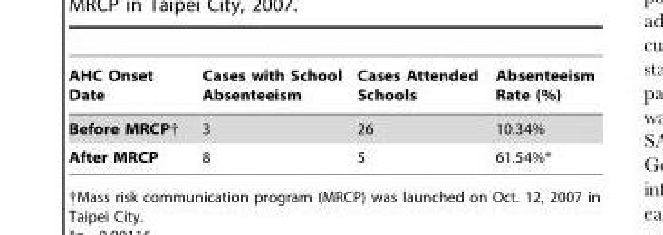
<table><thead><tr><td>AHC Onset Date</td><td>Cases with School Absenteeism</td><td>Cases Attended Schools</td><td>Absenteeism Rate (%)</td></tr></thead><tbody><tr><td>Before MRCP†</td><td>3</td><td>26</td><td>10.34%</td></tr><tr><td>After MRCP</td><td>8</td><td>5</td><td>61.54%*</td></tr></tbody></table>